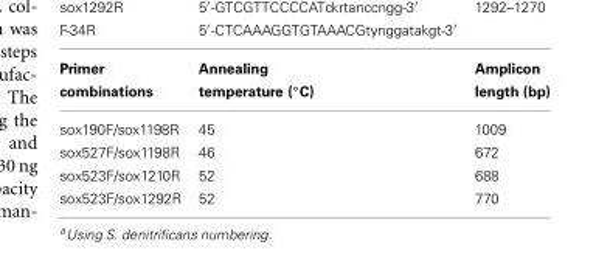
<table><thead><tr><td>Primer combinations</td><td>Annealing temperature (◦C)</td><td>Amplicon length (bp)</td></tr></thead><tbody><tr><td>sox190F/sox1198R</td><td>45</td><td>1009</td></tr><tr><td>sox527F/sox1198R</td><td>46</td><td>672</td></tr><tr><td>sox523F/sox1210R</td><td>52</td><td>688</td></tr><tr><td>sox523F/sox1292R</td><td>52</td><td>770</td></tr></tbody></table>